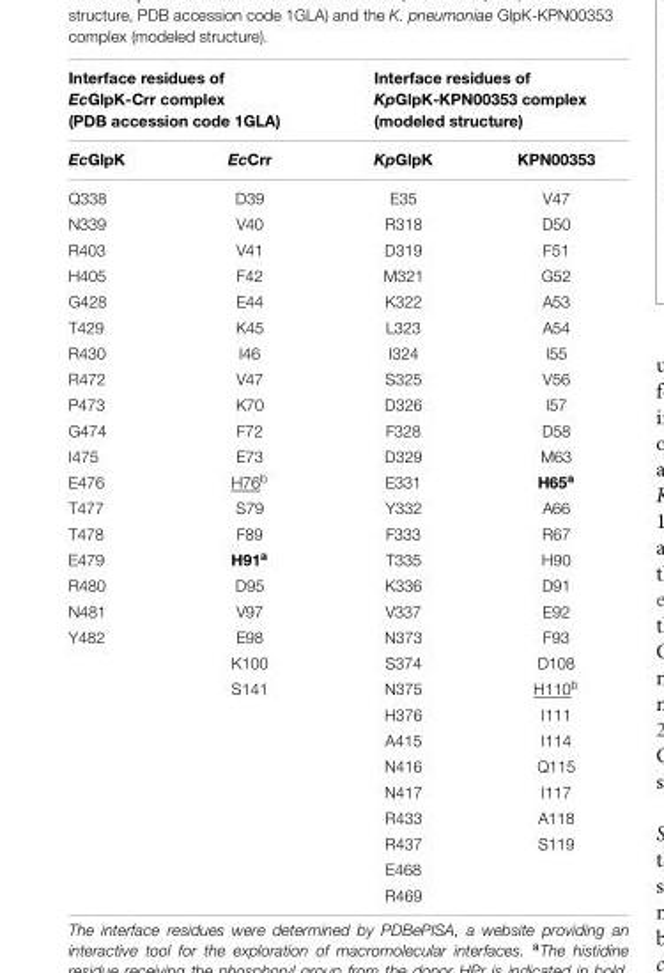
<table><thead><tr><td colspan="2">Interface residues of EcGlpK-Crr complex (PDB accession code 1GLA)</td><td colspan="2">Interface residues of KpGlpK-KPN00353 complex (modeled structure)</td></tr><tr><td>EcGlpK</td><td>EcCrr</td><td>KpGlpK</td><td>KPN00353</td></tr></thead><tbody><tr><td>Q338</td><td>D39</td><td>E35</td><td>V47</td></tr><tr><td>N339</td><td>V40</td><td>R318</td><td>D50</td></tr><tr><td>R403</td><td>V41</td><td>D319</td><td>F51</td></tr><tr><td>H405</td><td>F42</td><td>M321</td><td>G52</td></tr><tr><td>G428</td><td>E44</td><td>K322</td><td>A53</td></tr><tr><td>T429</td><td>K45</td><td>L323</td><td>A54</td></tr><tr><td>R430</td><td>I46</td><td>I324</td><td>I55</td></tr><tr><td>R472</td><td>V47</td><td>S325</td><td>V56</td></tr><tr><td>P473</td><td>K70</td><td>D326</td><td>I57</td></tr><tr><td>G474</td><td>F72</td><td>F328</td><td>D58</td></tr><tr><td>I475</td><td>E73</td><td>D329</td><td>M63</td></tr><tr><td>E476</td><td>H76<sup>b</sup></td><td>E331</td><td>H65<sup>a</sup></td></tr><tr><td>T477</td><td>S79</td><td>Y332</td><td>A66</td></tr><tr><td>T478</td><td>F89</td><td>F333</td><td>R67</td></tr><tr><td>E479</td><td>H91<sup>a</sup></td><td>T335</td><td>H90</td></tr><tr><td>R480</td><td>D95</td><td>K336</td><td>D91</td></tr><tr><td>N481</td><td>V97</td><td>V337</td><td>E92</td></tr><tr><td rowspan="11">Y482</td><td>E98</td><td>N373</td><td>F93</td></tr><tr><td>K100</td><td>S374</td><td>D108</td></tr><tr><td>S141</td><td>N375</td><td>H110<sup>b</sup></td></tr><tr><td></td><td>H376</td><td>I111</td></tr><tr><td></td><td>A415</td><td>I114</td></tr><tr><td></td><td>N416</td><td>Q115</td></tr><tr><td></td><td>N417</td><td>I117</td></tr><tr><td></td><td>R433</td><td>A118</td></tr><tr><td></td><td>R437</td><td>S119</td></tr><tr><td></td><td>E468</td><td></td></tr><tr><td></td><td>R469</td><td></td></tr></tbody></table>